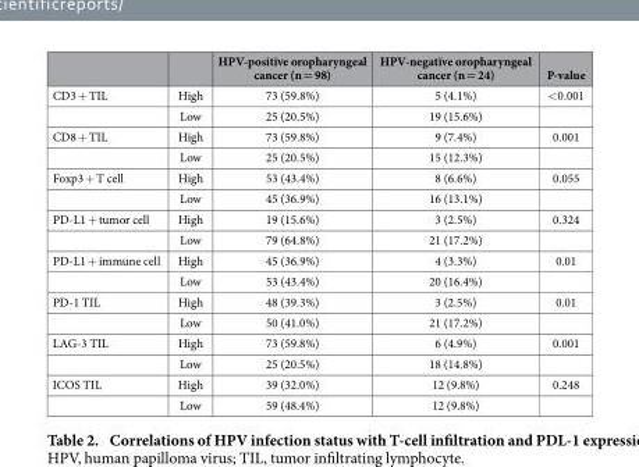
<table><thead><tr><td></td><td></td><td>HPV-positive oropharyngeal cancer (n = 98)</td><td>HPV-negative oropharyngeal cancer (n = 24)</td><td>P-value</td></tr></thead><tbody><tr><td rowspan="2">CD3 + TIL</td><td>High</td><td>73 (59.8%)</td><td>5 (4.1%)</td><td>&lt; 0.001</td></tr><tr><td>Low</td><td>25 (20.5%)</td><td>19 (15.6%)</td><td></td></tr><tr><td rowspan="2">CD8 + TIL</td><td>High</td><td>73 (59.8%)</td><td>9 (7.4%)</td><td>0.001</td></tr><tr><td>Low</td><td>25 (20.5%)</td><td>15 (12.3%)</td><td></td></tr><tr><td rowspan="2">Foxp3 + T cell</td><td>High</td><td>53 (43.4%)</td><td>8 (6.6%)</td><td>0.055</td></tr><tr><td>Low</td><td>45 (36.9%)</td><td>16 (13.1%)</td><td></td></tr><tr><td rowspan="2">PD-L1 + tumor cell</td><td>High</td><td>19 (15.6%)</td><td>3 (2.5%)</td><td>0.324</td></tr><tr><td>Low</td><td>79 (64.8%)</td><td>21 (17.2%)</td><td></td></tr><tr><td rowspan="2">PD-L1 + immune cell</td><td>High</td><td>45 (36.9%)</td><td>4 (3.3%)</td><td>0.01</td></tr><tr><td>Low</td><td>53 (43.4%)</td><td>20 (16.4%)</td><td></td></tr><tr><td rowspan="2">PD-1 TIL</td><td>High</td><td>48 (39.3%)</td><td>3 (2.5%)</td><td>0.01</td></tr><tr><td>Low</td><td>50 (41.0%)</td><td>21 (17.2%)</td><td></td></tr><tr><td rowspan="2">LAG-3 TIL</td><td>High</td><td>73 (59.8%)</td><td>6 (4.9%)</td><td>0.001</td></tr><tr><td>Low</td><td>25 (20.5%)</td><td>18 (14.8%)</td><td></td></tr><tr><td rowspan="2">ICOS TIL</td><td>High</td><td>39 (32.0%)</td><td>12 (9.8%)</td><td>0.248</td></tr><tr><td>Low</td><td>59 (48.4%)</td><td>12 (9.8%)</td><td></td></tr></tbody></table>